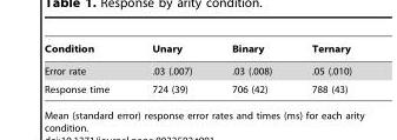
<table><thead><tr><td>Condition</td><td>Unary</td><td>Binary</td><td>Ternary</td></tr></thead><tbody><tr><td>Error rate</td><td>.03 (.007)</td><td>.03 (.008)</td><td>.05 (.010)</td></tr><tr><td>Response time</td><td>724 (39)</td><td>706 (42)</td><td>788 (43)</td></tr></tbody></table>